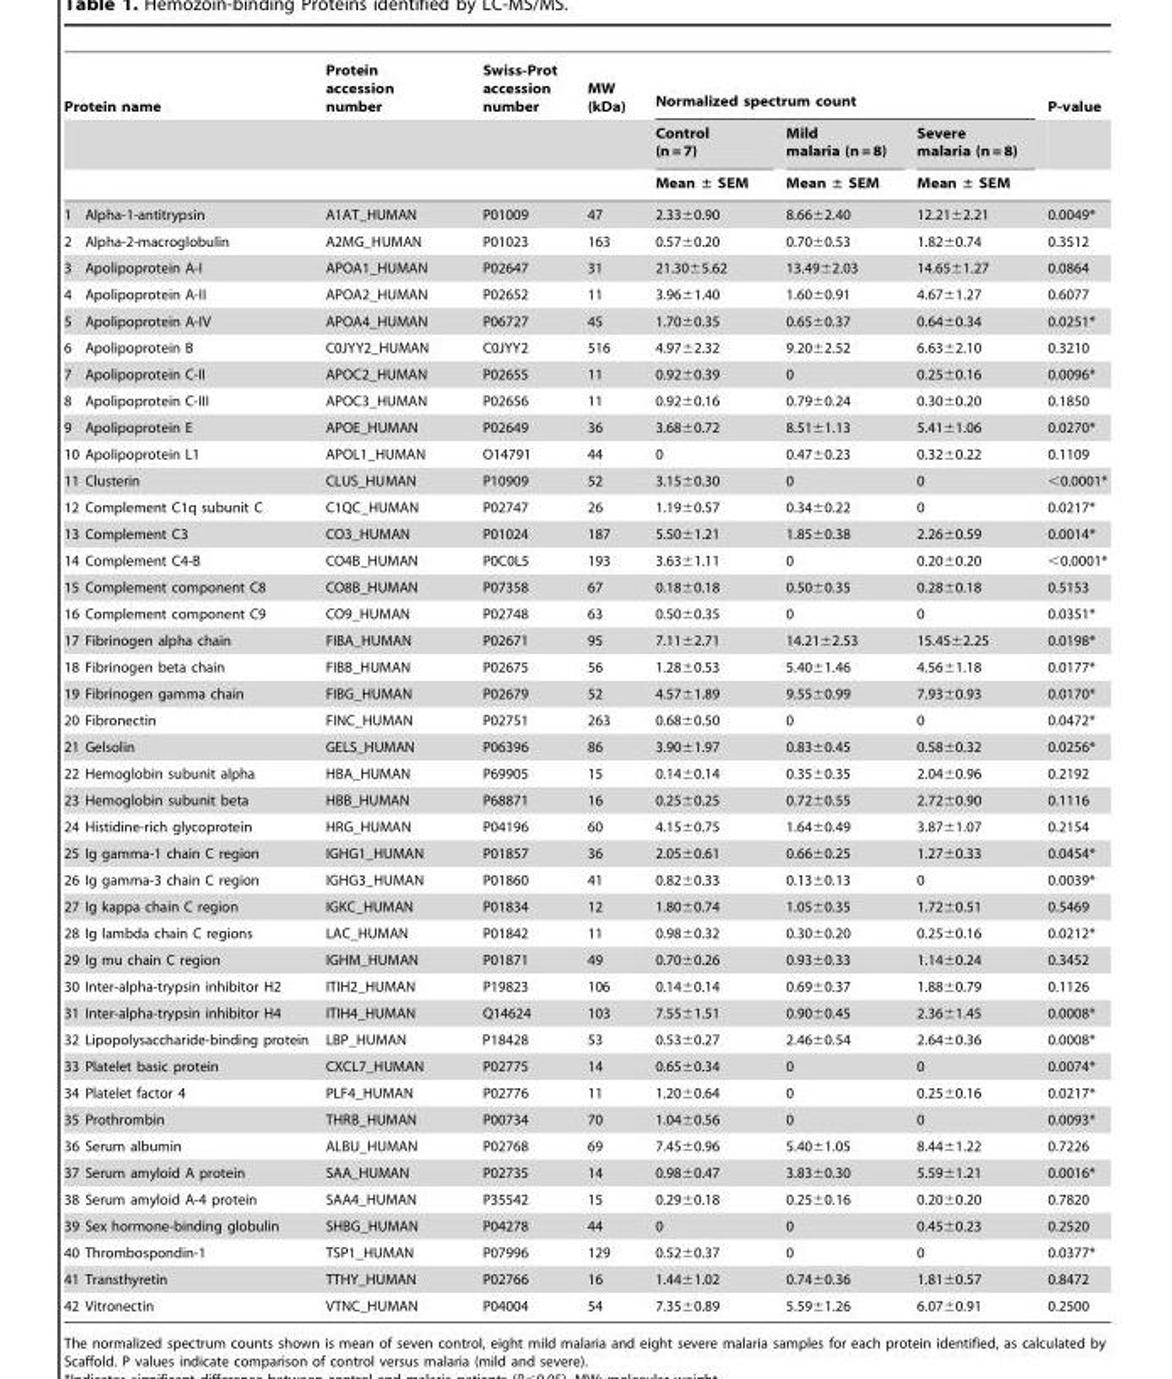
<table><thead><tr><td colspan="2">Protein name</td><td rowspan="3">Protein accession number</td><td rowspan="3">Swiss-Prot accession number</td><td rowspan="3">MW (kDa)</td><td colspan="3">Normalized spectrum count</td><td rowspan="3">P-value</td></tr><tr><td rowspan="2"></td><td rowspan="2"></td><td rowspan="2">Control (n = 7) Mean ± SEM</td><td rowspan="2">Mild malaria (n = 8) Mean ± SEM</td><td rowspan="2">Severe malaria (n = 8) Mean ± SEM</td></tr><tr></tr></thead><tbody><tr><td>1</td><td>Alpha-1-antitrypsin</td><td>A1AT_HUMAN</td><td>P01009</td><td>47</td><td>2.33±0.90</td><td>8.66±2.40</td><td>12.21±2.21</td><td>0.0049*</td></tr><tr><td>2</td><td>Alpha-2-macroglobulin</td><td>A2MG_HUMAN</td><td>P01023</td><td>163</td><td>0.57±0.20</td><td>0.70±0.53</td><td>1.82±0.74</td><td>0.3512</td></tr><tr><td>3</td><td>Apolipoprotein A-I</td><td>APOA1_HUMAN</td><td>P02647</td><td>31</td><td>21.30±5.62</td><td>13.49±2.03</td><td>14.65±1.27</td><td>0.0864</td></tr><tr><td>4</td><td>Apolipoprotein A-II</td><td>APOA2_HUMAN</td><td>P02652</td><td>11</td><td>3.96±1.40</td><td>1.60±0.91</td><td>4.67±1.27</td><td>0.6077</td></tr><tr><td>5</td><td>Apolipoprotein A-IV</td><td>APOA4_HUMAN</td><td>P06727</td><td>45</td><td>1.70±0.35</td><td>0.65±0.37</td><td>0.64±0.34</td><td>0.0251*</td></tr><tr><td>6</td><td>Apolipoprotein B</td><td>C0JYY2_HUMAN</td><td>C0JYY2</td><td>516</td><td>4.97±2.32</td><td>9.20±2.52</td><td>6.63±2.10</td><td>0.3210</td></tr><tr><td>7</td><td>Apolipoprotein C-II</td><td>APOC2_HUMAN</td><td>P02655</td><td>11</td><td>0.92±0.39</td><td>0</td><td>0.25±0.16</td><td>0.0096*</td></tr><tr><td>8</td><td>Apolipoprotein C-III</td><td>APOC3_HUMAN</td><td>P02656</td><td>11</td><td>0.92±0.16</td><td>0.79±0.24</td><td>0.30±0.20</td><td>0.1850</td></tr><tr><td>9</td><td>Apolipoprotein E</td><td>APOE_HUMAN</td><td>P02649</td><td>36</td><td>3.68±0.72</td><td>8.51±1.13</td><td>5.41±1.06</td><td>0.0270*</td></tr><tr><td>10</td><td>Apolipoprotein L1</td><td>APOL1_HUMAN</td><td>O14791</td><td>44</td><td>0</td><td>0.47±0.23</td><td>0.32±0.22</td><td>0.1109</td></tr><tr><td>11</td><td>Clusterin</td><td>CLUS_HUMAN</td><td>P10909</td><td>52</td><td>3.15±0.30</td><td>0</td><td>0</td><td>&lt;0.0001*</td></tr><tr><td>12</td><td>Complement C1q subunit C</td><td>C1QC_HUMAN</td><td>P02747</td><td>26</td><td>1.19±0.57</td><td>0.34±0.22</td><td>0</td><td>0.0217*</td></tr><tr><td>13</td><td>Complement C3</td><td>CO3_HUMAN</td><td>P01024</td><td>187</td><td>5.50±1.21</td><td>1.85±0.38</td><td>2.26±0.59</td><td>0.0014*</td></tr><tr><td>14</td><td>Complement C4-B</td><td>CO4B_HUMAN</td><td>P0C0L5</td><td>193</td><td>3.63±1.11</td><td>0</td><td>0.20±0.20</td><td>&lt;0.0001*</td></tr><tr><td>15</td><td>Complement component C8</td><td>CO8B_HUMAN</td><td>P07358</td><td>67</td><td>0.18±0.18</td><td>0.50±0.35</td><td>0.28±0.18</td><td>0.5153</td></tr><tr><td>16</td><td>Complement component C9</td><td>CO9_HUMAN</td><td>P02748</td><td>63</td><td>0.50±0.35</td><td>0</td><td>0</td><td>0.0351*</td></tr><tr><td>17</td><td>Fibrinogen alpha chain</td><td>FIBA_HUMAN</td><td>P02671</td><td>95</td><td>7.11±2.71</td><td>14.21±2.53</td><td>15.45±2.25</td><td>0.0198*</td></tr><tr><td>18</td><td>Fibrinogen beta chain</td><td>FIBB_HUMAN</td><td>P02675</td><td>56</td><td>1.28±0.53</td><td>5.40±1.46</td><td>4.56±1.18</td><td>0.0177*</td></tr><tr><td>19</td><td>Fibrinogen gamma chain</td><td>FIBG_HUMAN</td><td>P02679</td><td>52</td><td>4.57±1.89</td><td>9.55±0.99</td><td>7.93±0.93</td><td>0.0170*</td></tr><tr><td>20</td><td>Fibronectin</td><td>FINC_HUMAN</td><td>P02751</td><td>263</td><td>0.68±0.50</td><td>0</td><td>0</td><td>0.0472*</td></tr><tr><td>21</td><td>Gelsolin</td><td>GELS_HUMAN</td><td>P06396</td><td>86</td><td>3.90±1.97</td><td>0.83±0.45</td><td>0.58±0.32</td><td>0.0256*</td></tr><tr><td>22</td><td>Hemoglobin subunit alpha</td><td>HBA_HUMAN</td><td>P69905</td><td>15</td><td>0.14±0.14</td><td>0.35±0.35</td><td>2.04±0.96</td><td>0.2192</td></tr><tr><td>23</td><td>Hemoglobin subunit beta</td><td>HBB_HUMAN</td><td>P68871</td><td>16</td><td>0.25±0.25</td><td>0.72±0.55</td><td>2.72±0.90</td><td>0.1116</td></tr><tr><td>24</td><td>Histidine-rich glycoprotein</td><td>HRG_HUMAN</td><td>P04196</td><td>60</td><td>4.15±0.75</td><td>1.64±0.49</td><td>3.87±1.07</td><td>0.2154</td></tr><tr><td>25</td><td>Ig gamma-1 chain C region</td><td>IGHG1_HUMAN</td><td>P01857</td><td>36</td><td>2.05±0.61</td><td>0.66±0.25</td><td>1.27±0.33</td><td>0.0454*</td></tr><tr><td>26</td><td>Ig gamma-3 chain C region</td><td>IGHG3_HUMAN</td><td>P01860</td><td>41</td><td>0.82±0.33</td><td>0.13±0.13</td><td>0</td><td>0.0039*</td></tr><tr><td>27</td><td>Ig kappa chain C region</td><td>IGKC_HUMAN</td><td>P01834</td><td>12</td><td>1.80±0.74</td><td>1.05±0.35</td><td>1.72±0.51</td><td>0.5469</td></tr><tr><td>28</td><td>Ig lambda chain C regions</td><td>LAC_HUMAN</td><td>P01842</td><td>11</td><td>0.98±0.32</td><td>0.30±0.20</td><td>0.25±0.16</td><td>0.0212*</td></tr><tr><td>29</td><td>Ig mu chain C region</td><td>IGHM_HUMAN</td><td>P01871</td><td>49</td><td>0.70±0.26</td><td>0.93±0.33</td><td>1.14±0.24</td><td>0.3452</td></tr><tr><td>30</td><td>Inter-alpha-trypsin inhibitor H2</td><td>ITIH2_HUMAN</td><td>P19823</td><td>106</td><td>0.14±0.14</td><td>0.69±0.37</td><td>1.88±0.79</td><td>0.1126</td></tr><tr><td>31</td><td>Inter-alpha-trypsin inhibitor H4</td><td>ITIH4_HUMAN</td><td>Q14624</td><td>103</td><td>7.55±1.51</td><td>0.90±0.45</td><td>2.36±1.45</td><td>0.0008*</td></tr><tr><td>32</td><td>Lipopolysaccharide-binding protein</td><td>LBP_HUMAN</td><td>P18428</td><td>53</td><td>0.53±0.27</td><td>2.46±0.54</td><td>2.64±0.36</td><td>0.0008*</td></tr><tr><td>33</td><td>Platelet basic protein</td><td>CXCL7_HUMAN</td><td>P02775</td><td>14</td><td>0.65±0.34</td><td>0</td><td>0</td><td>0.0074*</td></tr><tr><td>34</td><td>Platelet factor 4</td><td>PLF4_HUMAN</td><td>P02776</td><td>11</td><td>1.20±0.64</td><td>0</td><td>0.25±0.16</td><td>0.0217*</td></tr><tr><td>35</td><td>Prothrombin</td><td>THRB_HUMAN</td><td>P00734</td><td>70</td><td>1.04±0.56</td><td>0</td><td>0</td><td>0.0093*</td></tr><tr><td>36</td><td>Serum albumin</td><td>ALBU_HUMAN</td><td>P02768</td><td>69</td><td>7.45±0.96</td><td>5.40±1.05</td><td>8.44±1.22</td><td>0.7226</td></tr><tr><td>37</td><td>Serum amyloid A protein</td><td>SAA_HUMAN</td><td>P02735</td><td>14</td><td>0.98±0.47</td><td>3.83±0.30</td><td>5.59±1.21</td><td>0.0016*</td></tr><tr><td>38</td><td>Serum amyloid A-4 protein</td><td>SAA4_HUMAN</td><td>P35542</td><td>15</td><td>0.29±0.18</td><td>0.25±0.16</td><td>0.20±0.20</td><td>0.7820</td></tr><tr><td>39</td><td>Sex hormone-binding globulin</td><td>SHBG_HUMAN</td><td>P04278</td><td>44</td><td>0</td><td>0</td><td>0.45±0.23</td><td>0.2520</td></tr><tr><td>40</td><td>Thrombospondin-1</td><td>TSP1_HUMAN</td><td>P07996</td><td>129</td><td>0.52±0.37</td><td>0</td><td>0</td><td>0.0377*</td></tr><tr><td>41</td><td>Transthyretin</td><td>TTHY_HUMAN</td><td>P02766</td><td>16</td><td>1.44±1.02</td><td>0.74±0.36</td><td>1.81±0.57</td><td>0.8472</td></tr><tr><td>42</td><td>Vitronectin</td><td>VTNC_HUMAN</td><td>P04004</td><td>54</td><td>7.35±0.89</td><td>5.59±1.26</td><td>6.07±0.91</td><td>0.2500</td></tr></tbody></table>